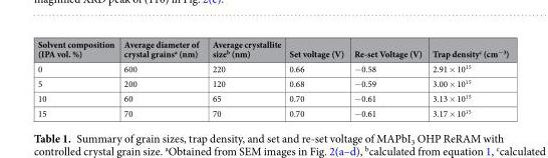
<table><thead><tr><td>Solvent composition (IPA vol. %)</td><td>Average diameter of crystal grains<sup>a</sup> (nm)</td><td>Average crystallite size<sup>b</sup> (nm)</td><td>Set voltage (V)</td><td>Re-set Voltage (V)</td><td>Trap density<sup>c</sup> (cm<sup>−3</sup>)</td></tr></thead><tbody><tr><td>0</td><td>600</td><td>220</td><td>0.66</td><td>−0.58</td><td>2.91 × 10<sup>15</sup></td></tr><tr><td>5</td><td>200</td><td>120</td><td>0.68</td><td>−0.59</td><td>3.00 × 10<sup>15</sup></td></tr><tr><td>10</td><td>60</td><td>65</td><td>0.70</td><td>−0.61</td><td>3.13 × 10<sup>15</sup></td></tr><tr><td>15</td><td>70</td><td>70</td><td>0.70</td><td>−0.61</td><td>3.17 × 10<sup>15</sup></td></tr></tbody></table>